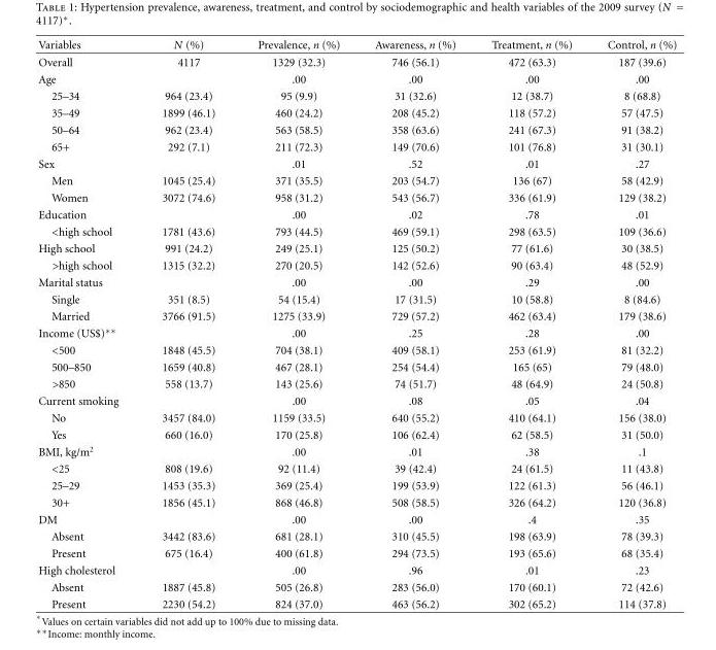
<table><thead><tr><td>Variables</td><td>N (%)</td><td>Prevalence, n (%)</td><td>Awareness, n (%)</td><td>Treatment, n (%)</td><td>Control, n (%)</td></tr></thead><tbody><tr><td>Overall</td><td>4117</td><td>1329 (32.3)</td><td>746 (56.1)</td><td>472 (63.3)</td><td>187 (39.6)</td></tr><tr><td>Age</td><td></td><td>.00</td><td>.00</td><td>.00</td><td>.00</td></tr><tr><td>25–34</td><td>964 (23.4)</td><td>95 (9.9)</td><td>31 (32.6)</td><td>12 (38.7)</td><td>8 (68.8)</td></tr><tr><td>35–49</td><td>1899 (46.1)</td><td>460 (24.2)</td><td>208 (45.2)</td><td>118 (57.2)</td><td>57 (47.5)</td></tr><tr><td>50–64</td><td>962 (23.4)</td><td>563 (58.5)</td><td>358 (63.6)</td><td>241 (67.3)</td><td>91 (38.2)</td></tr><tr><td>65+</td><td>292 (7.1)</td><td>211 (72.3)</td><td>149 (70.6)</td><td>101 (76.8)</td><td>31 (30.1)</td></tr><tr><td>Sex</td><td></td><td>.01</td><td>.52</td><td>.01</td><td>.27</td></tr><tr><td>Men</td><td>1045 (25.4)</td><td>371 (35.5)</td><td>203 (54.7)</td><td>136 (67)</td><td>58 (42.9)</td></tr><tr><td>Women</td><td>3072 (74.6)</td><td>958 (31.2)</td><td>543 (56.7)</td><td>336 (61.9)</td><td>129 (38.2)</td></tr><tr><td>Education</td><td></td><td>.00</td><td>.02</td><td>.78</td><td>.01</td></tr><tr><td>&lt;high school</td><td>1781 (43.6)</td><td>793 (44.5)</td><td>469 (59.1)</td><td>298 (63.5)</td><td>109 (36.6)</td></tr><tr><td>High school</td><td>991 (24.2)</td><td>249 (25.1)</td><td>125 (50.2)</td><td>77 (61.6)</td><td>30 (38.5)</td></tr><tr><td>&gt;high school</td><td>1315 (32.2)</td><td>270 (20.5)</td><td>142 (52.6)</td><td>90 (63.4)</td><td>48 (52.9)</td></tr><tr><td>Marital status</td><td></td><td>.00</td><td>.00</td><td>.29</td><td>.00</td></tr><tr><td>Single</td><td>351 (8.5)</td><td>54 (15.4)</td><td>17 (31.5)</td><td>10 (58.8)</td><td>8 (84.6)</td></tr><tr><td>Married</td><td>3766 (91.5)</td><td>1275 (33.9)</td><td>729 (57.2)</td><td>462 (63.4)</td><td>179 (38.6)</td></tr><tr><td>Income (US$)∗∗</td><td></td><td>.00</td><td>.25</td><td>.28</td><td>.00</td></tr><tr><td>&lt;500</td><td>1848 (45.5)</td><td>704 (38.1)</td><td>409 (58.1)</td><td>253 (61.9)</td><td>81 (32.2)</td></tr><tr><td>500–850</td><td>1659 (40.8)</td><td>467 (28.1)</td><td>254 (54.4)</td><td>165 (65)</td><td>79 (48.0)</td></tr><tr><td>&gt;850</td><td>558 (13.7)</td><td>143 (25.6)</td><td>74 (51.7)</td><td>48 (64.9)</td><td>24 (50.8)</td></tr><tr><td>Current smoking</td><td></td><td>.00</td><td>.08</td><td>.05</td><td>.04</td></tr><tr><td>No</td><td>3457 (84.0)</td><td>1159 (33.5)</td><td>640 (55.2)</td><td>410 (64.1)</td><td>156 (38.0)</td></tr><tr><td>Yes</td><td>660 (16.0)</td><td>170 (25.8)</td><td>106 (62.4)</td><td>62 (58.5)</td><td>31 (50.0)</td></tr><tr><td>BMI, kg/m<sup>2</sup></td><td></td><td>.00</td><td>.01</td><td>.38</td><td>.1</td></tr><tr><td>&lt;25</td><td>808 (19.6)</td><td>92 (11.4)</td><td>39 (42.4)</td><td>24 (61.5)</td><td>11 (43.8)</td></tr><tr><td>25–29</td><td>1453 (35.3)</td><td>369 (25.4)</td><td>199 (53.9)</td><td>122 (61.3)</td><td>56 (46.1)</td></tr><tr><td>30+</td><td>1856 (45.1)</td><td>868 (46.8)</td><td>508 (58.5)</td><td>326 (64.2)</td><td>120 (36.8)</td></tr><tr><td>DM</td><td></td><td>.00</td><td>.00</td><td>.4</td><td>.35</td></tr><tr><td>Absent</td><td>3442 (83.6)</td><td>681 (28.1)</td><td>310 (45.5)</td><td>198 (63.9)</td><td>78 (39.3)</td></tr><tr><td>Present</td><td>675 (16.4)</td><td>400 (61.8)</td><td>294 (73.5)</td><td>193 (65.6)</td><td>68 (35.4)</td></tr><tr><td>High cholesterol</td><td></td><td>.00</td><td>.96</td><td>.01</td><td>.23</td></tr><tr><td>Absent</td><td>1887 (45.8)</td><td>505 (26.8)</td><td>283 (56.0)</td><td>170 (60.1)</td><td>72 (42.6)</td></tr><tr><td>Present</td><td>2230 (54.2)</td><td>824 (37.0)</td><td>463 (56.2)</td><td>302 (65.2)</td><td>114 (37.8)</td></tr></tbody></table>